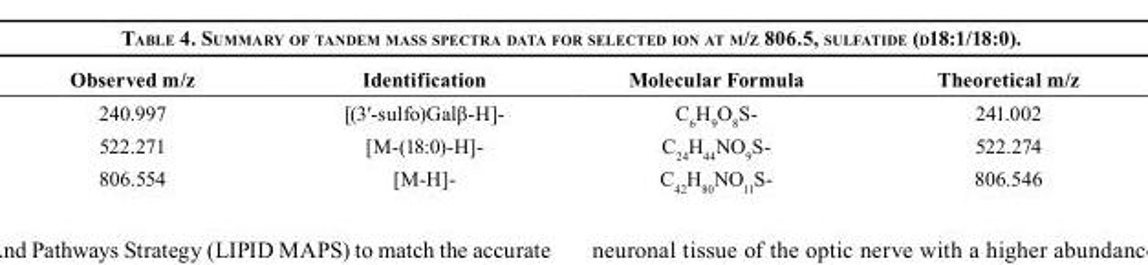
<table><thead><tr><td>Observed m/z</td><td>Identification</td><td>Molecular Formula</td><td>Theoretical m/z</td></tr></thead><tbody><tr><td>240.997</td><td>[(3′-sulfo)Galβ-H]-</td><td>C<sub>6</sub>H<sub>9</sub>O<sub>8</sub>S-</td><td>241.002</td></tr><tr><td>522.271</td><td>[M-(18:0)-H]-</td><td>C<sub>24</sub>H<sub>44</sub>NO<sub>9</sub>S-</td><td>522.274</td></tr><tr><td>806.554</td><td>[M-H]-</td><td>C<sub>42</sub>H<sub>80</sub>NO<sub>11</sub>S-</td><td>806.546</td></tr></tbody></table>